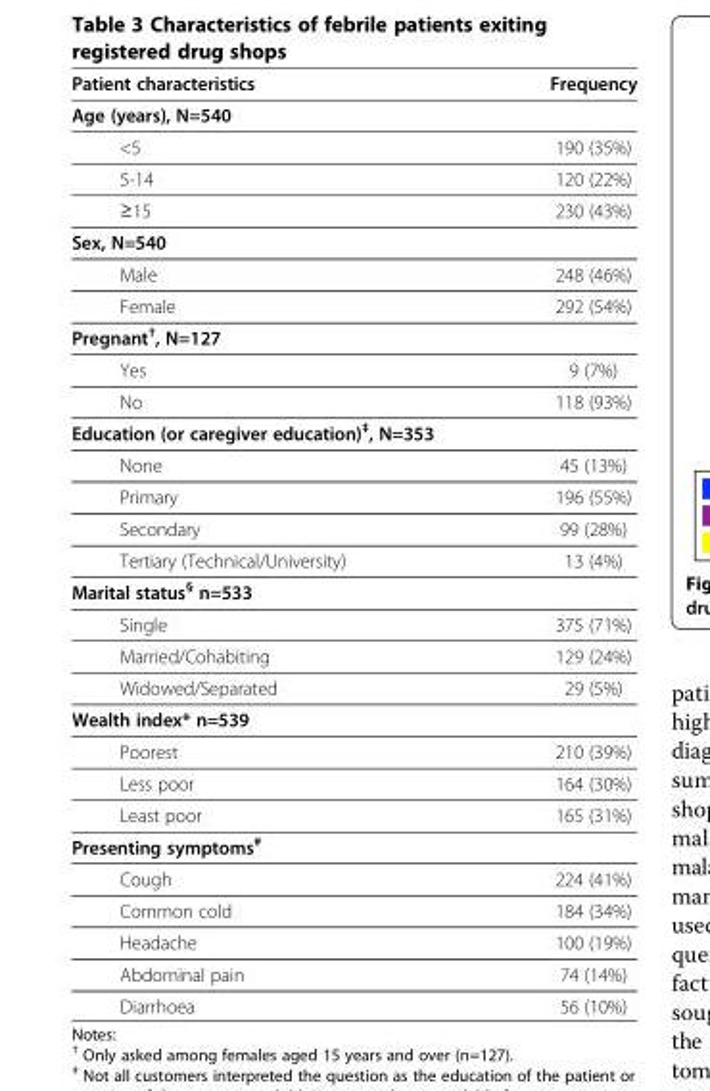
<table><thead><tr><td>Patient characteristics</td><td>Frequency</td></tr></thead><tbody><tr><td colspan="2">Age (years), N=540</td></tr><tr><td>&lt;5</td><td>190 (35%)</td></tr><tr><td>5-14</td><td>120 (22%)</td></tr><tr><td>≥15</td><td>230 (43%)</td></tr><tr><td colspan="2">Sex, N=540</td></tr><tr><td>Male</td><td>248 (46%)</td></tr><tr><td>Female</td><td>292 (54%)</td></tr><tr><td colspan="2">Pregnant<sup>†</sup>, N=127</td></tr><tr><td>Yes</td><td>9 (7%)</td></tr><tr><td>No</td><td>118 (93%)</td></tr><tr><td colspan="2">Education (or caregiver education)<sup>‡</sup>, N=353</td></tr><tr><td>None</td><td>45 (13%)</td></tr><tr><td>Primary</td><td>196 (55%)</td></tr><tr><td>Secondary</td><td>99 (28%)</td></tr><tr><td>Tertiary (Technical/University)</td><td>13 (4%)</td></tr><tr><td colspan="2">Marital status<sup>§</sup> n=533</td></tr><tr><td>Single</td><td>375 (71%)</td></tr><tr><td>Married/Cohabiting</td><td>129 (24%)</td></tr><tr><td>Widowed/Separated</td><td>29 (5%)</td></tr><tr><td colspan="2">Wealth index* n=539</td></tr><tr><td>Poorest</td><td>210 (39%)</td></tr><tr><td>Less poor</td><td>164 (30%)</td></tr><tr><td>Least poor</td><td>165 (31%)</td></tr><tr><td colspan="2">Presenting symptoms<sup>#</sup></td></tr><tr><td>Cough</td><td>224 (41%)</td></tr><tr><td>Common cold</td><td>184 (34%)</td></tr><tr><td>Headache</td><td>100 (19%)</td></tr><tr><td>Abdominal pain</td><td>74 (14%)</td></tr><tr><td>Diarrhoea</td><td>56 (10%)</td></tr></tbody></table>